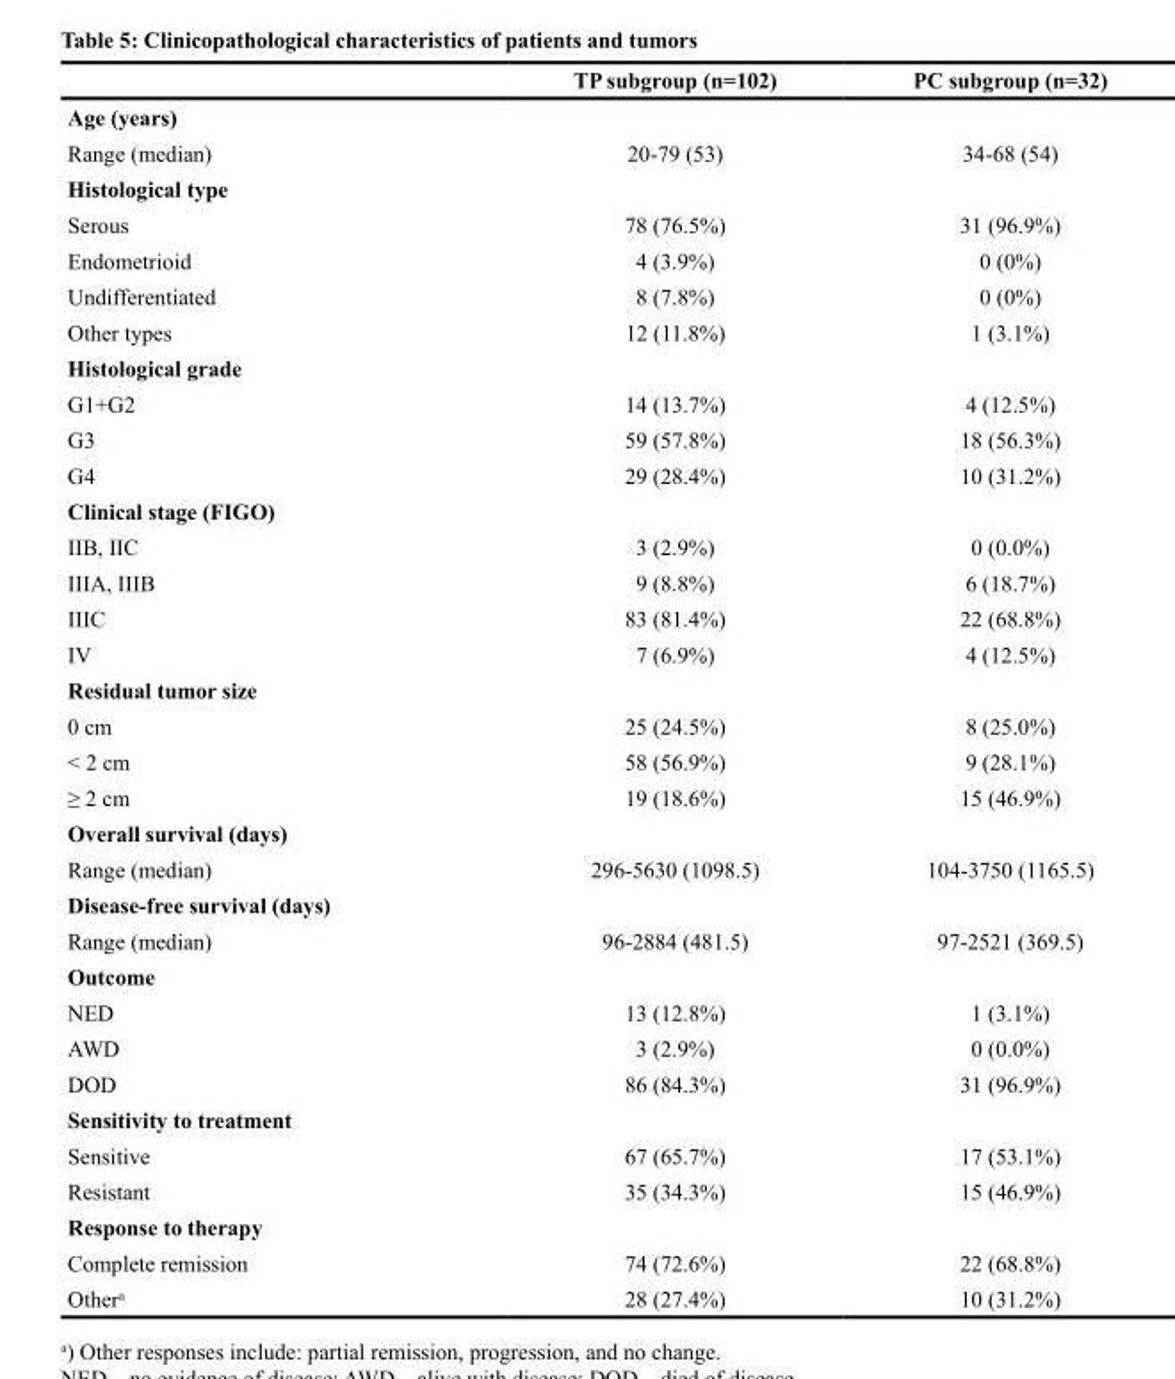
<table><thead><tr><td></td><td>TP subgroup (n=102)</td><td>PC subgroup (n=32)</td></tr></thead><tbody><tr><td colspan="3">Age (years)</td></tr><tr><td>Range (median)</td><td>20-79 (53)</td><td>34-68 (54)</td></tr><tr><td colspan="3">Histological type</td></tr><tr><td>Serous</td><td>78 (76.5%)</td><td>31 (96.9%)</td></tr><tr><td>Endometrioid</td><td>4 (3.9%)</td><td>0 (0%)</td></tr><tr><td>Undifferentiated</td><td>8 (7.8%)</td><td>0 (0%)</td></tr><tr><td>Other types</td><td>12 (11.8%)</td><td>1 (3.1%)</td></tr><tr><td colspan="3">Histological grade</td></tr><tr><td>G1+G2</td><td>14 (13.7%)</td><td>4 (12.5%)</td></tr><tr><td>G3</td><td>59 (57.8%)</td><td>18 (56.3%)</td></tr><tr><td>G4</td><td>29 (28.4%)</td><td>10 (31.2%)</td></tr><tr><td colspan="3">Clinical stage (FIGO)</td></tr><tr><td>IIB, IIC</td><td>3 (2.9%)</td><td>0 (0.0%)</td></tr><tr><td>IIIA, IIIB</td><td>9 (8.8%)</td><td>6 (18.7%)</td></tr><tr><td>IIIC</td><td>83 (81.4%)</td><td>22 (68.8%)</td></tr><tr><td>IV</td><td>7 (6.9%)</td><td>4 (12.5%)</td></tr><tr><td colspan="3">Residual tumor size</td></tr><tr><td>0 cm</td><td>25 (24.5%)</td><td>8 (25.0%)</td></tr><tr><td>&lt; 2 cm</td><td>58 (56.9%)</td><td>9 (28.1%)</td></tr><tr><td>≥ 2 cm</td><td>19 (18.6%)</td><td>15 (46.9%)</td></tr><tr><td colspan="3">Overall survival (days)</td></tr><tr><td>Range (median)</td><td>296-5630 (1098.5)</td><td>104-3750 (1165.5)</td></tr><tr><td colspan="3">Disease-free survival (days)</td></tr><tr><td>Range (median)</td><td>96-2884 (481.5)</td><td>97-2521 (369.5)</td></tr><tr><td colspan="3">Outcome</td></tr><tr><td>NED</td><td>13 (12.8%)</td><td>1 (3.1%)</td></tr><tr><td>AWD</td><td>3 (2.9%)</td><td>0 (0.0%)</td></tr><tr><td>DOD</td><td>86 (84.3%)</td><td>31 (96.9%)</td></tr><tr><td colspan="3">Sensitivity to treatment</td></tr><tr><td>Sensitive</td><td>67 (65.7%)</td><td>17 (53.1%)</td></tr><tr><td>Resistant</td><td>35 (34.3%)</td><td>15 (46.9%)</td></tr><tr><td colspan="3">Response to therapy</td></tr><tr><td>Complete remission</td><td>74 (72.6%)</td><td>22 (68.8%)</td></tr><tr><td>Other<sup>a</sup></td><td>28 (27.4%)</td><td>10 (31.2%)</td></tr></tbody></table>